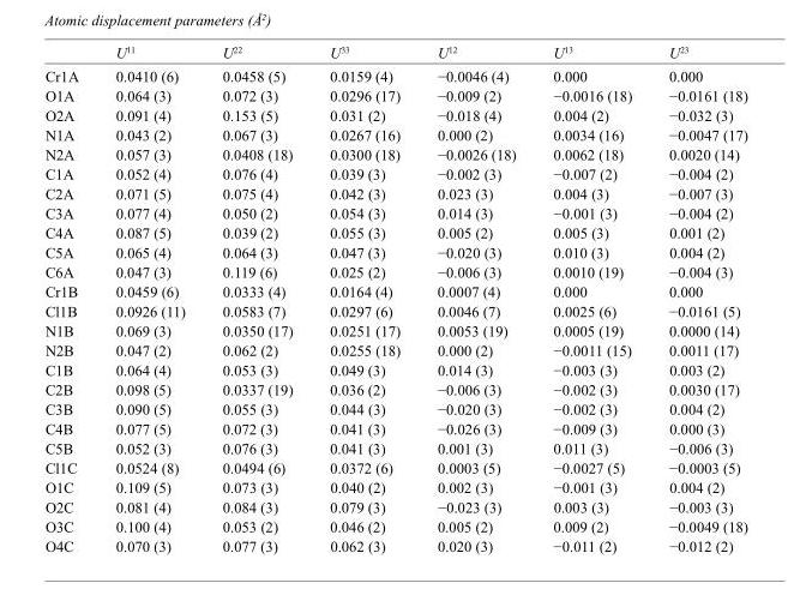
<table><thead><tr><td></td><td>U<sup>11</sup></td><td>U<sup>22</sup></td><td>U<sup>33</sup></td><td>U<sup>12</sup></td><td>U<sup>13</sup></td><td>U<sup>23</sup></td></tr></thead><tbody><tr><td>Cr1A</td><td>0.0410 (6)</td><td>0.0458 (5)</td><td>0.0159 (4)</td><td>−0.0046 (4)</td><td>0.000</td><td>0.000</td></tr><tr><td>O1A</td><td>0.064 (3)</td><td>0.072 (3)</td><td>0.0296 (17)</td><td>−0.009 (2)</td><td>−0.0016 (18)</td><td>−0.0161 (18)</td></tr><tr><td>O2A</td><td>0.091 (4)</td><td>0.153 (5)</td><td>0.031 (2)</td><td>−0.018 (4)</td><td>0.004 (2)</td><td>−0.032 (3)</td></tr><tr><td>N1A</td><td>0.043 (2)</td><td>0.067 (3)</td><td>0.0267 (16)</td><td>0.000 (2)</td><td>0.0034 (16)</td><td>−0.0047 (17)</td></tr><tr><td>N2A</td><td>0.057 (3)</td><td>0.0408 (18)</td><td>0.0300 (18)</td><td>−0.0026 (18)</td><td>0.0062 (18)</td><td>0.0020 (14)</td></tr><tr><td>C1A</td><td>0.052 (4)</td><td>0.076 (4)</td><td>0.039 (3)</td><td>−0.002 (3)</td><td>−0.007 (2)</td><td>−0.004 (2)</td></tr><tr><td>C2A</td><td>0.071 (5)</td><td>0.075 (4)</td><td>0.042 (3)</td><td>0.023 (3)</td><td>0.004 (3)</td><td>−0.007 (3)</td></tr><tr><td>C3A</td><td>0.077 (4)</td><td>0.050 (2)</td><td>0.054 (3)</td><td>0.014 (3)</td><td>−0.001 (3)</td><td>−0.004 (2)</td></tr><tr><td>C4A</td><td>0.087 (5)</td><td>0.039 (2)</td><td>0.055 (3)</td><td>0.005 (2)</td><td>0.005 (3)</td><td>0.001 (2)</td></tr><tr><td>C5A</td><td>0.065 (4)</td><td>0.064 (3)</td><td>0.047 (3)</td><td>−0.020 (3)</td><td>0.010 (3)</td><td>0.004 (2)</td></tr><tr><td>C6A</td><td>0.047 (3)</td><td>0.119 (6)</td><td>0.025 (2)</td><td>−0.006 (3)</td><td>0.0010 (19)</td><td>−0.004 (3)</td></tr><tr><td>Cr1B</td><td>0.0459 (6)</td><td>0.0333 (4)</td><td>0.0164 (4)</td><td>0.0007 (4)</td><td>0.000</td><td>0.000</td></tr><tr><td>Cl1B</td><td>0.0926 (11)</td><td>0.0583 (7)</td><td>0.0297 (6)</td><td>0.0046 (7)</td><td>0.0025 (6)</td><td>−0.0161 (5)</td></tr><tr><td>N1B</td><td>0.069 (3)</td><td>0.0350 (17)</td><td>0.0251 (17)</td><td>0.0053 (19)</td><td>0.0005 (19)</td><td>0.0000 (14)</td></tr><tr><td>N2B</td><td>0.047 (2)</td><td>0.062 (2)</td><td>0.0255 (18)</td><td>0.000 (2)</td><td>−0.0011 (15)</td><td>0.0011 (17)</td></tr><tr><td>C1B</td><td>0.064 (4)</td><td>0.053 (3)</td><td>0.049 (3)</td><td>0.014 (3)</td><td>−0.003 (3)</td><td>0.003 (2)</td></tr><tr><td>C2B</td><td>0.098 (5)</td><td>0.0337 (19)</td><td>0.036 (2)</td><td>−0.006 (3)</td><td>−0.002 (3)</td><td>0.0030 (17)</td></tr><tr><td>C3B</td><td>0.090 (5)</td><td>0.055 (3)</td><td>0.044 (3)</td><td>−0.020 (3)</td><td>−0.002 (3)</td><td>0.004 (2)</td></tr><tr><td>C4B</td><td>0.077 (5)</td><td>0.072 (3)</td><td>0.041 (3)</td><td>−0.026 (3)</td><td>−0.009 (3)</td><td>0.000 (3)</td></tr><tr><td>C5B</td><td>0.052 (3)</td><td>0.076 (3)</td><td>0.041 (3)</td><td>0.001 (3)</td><td>0.011 (3)</td><td>−0.006 (3)</td></tr><tr><td>Cl1C</td><td>0.0524 (8)</td><td>0.0494 (6)</td><td>0.0372 (6)</td><td>0.0003 (5)</td><td>−0.0027 (5)</td><td>−0.0003 (5)</td></tr><tr><td>O1C</td><td>0.109 (5)</td><td>0.073 (3)</td><td>0.040 (2)</td><td>0.002 (3)</td><td>−0.001 (3)</td><td>0.004 (2)</td></tr><tr><td>O2C</td><td>0.081 (4)</td><td>0.084 (3)</td><td>0.079 (3)</td><td>−0.023 (3)</td><td>0.003 (3)</td><td>−0.003 (3)</td></tr><tr><td>O3C</td><td>0.100 (4)</td><td>0.053 (2)</td><td>0.046 (2)</td><td>0.005 (2)</td><td>0.009 (2)</td><td>−0.0049 (18)</td></tr><tr><td>O4C</td><td>0.070 (3)</td><td>0.077 (3)</td><td>0.062 (3)</td><td>0.020 (3)</td><td>−0.011 (2)</td><td>−0.012 (2)</td></tr></tbody></table>